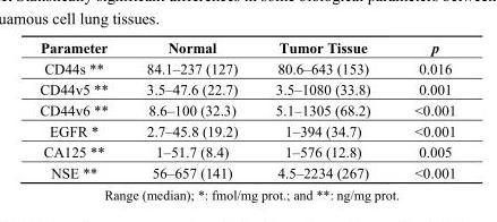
<table><thead><tr><td>Parameter</td><td>Normal</td><td>Tumor Tissue</td><td>p</td></tr></thead><tbody><tr><td>CD44s **</td><td>84.1–237 (127)</td><td>80.6–643 (153)</td><td>0.016</td></tr><tr><td>CD44v5 **</td><td>3.5–47.6 (22.7)</td><td>3.5–1080 (33.8)</td><td>0.001</td></tr><tr><td>CD44v6 **</td><td>8.6–100 (32.3)</td><td>5.1–1305 (68.2)</td><td>&lt;0.001</td></tr><tr><td>EGFR *</td><td>2.7–45.8 (19.2)</td><td>1–394 (34.7)</td><td>&lt;0.001</td></tr><tr><td>CA125 **</td><td>1–51.7 (8.4)</td><td>1–576 (12.8)</td><td>0.005</td></tr><tr><td>NSE **</td><td>56–657 (141)</td><td>4.5–2234 (267)</td><td>&lt;0.001</td></tr></tbody></table>